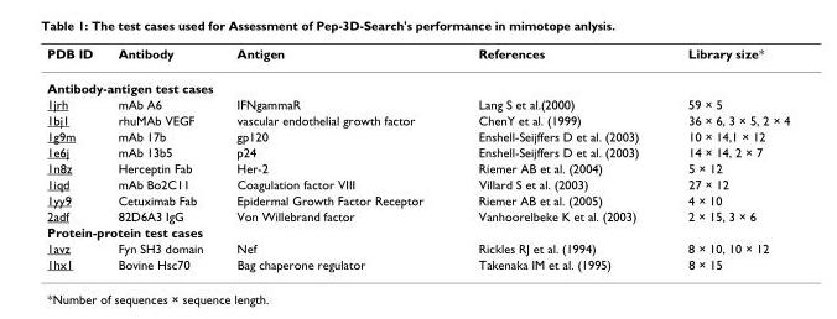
<table><thead><tr><td>PDB ID</td><td>Antibody</td><td>Antigen</td><td>References</td><td>Library size*</td></tr></thead><tbody><tr><td colspan="5">Antibody-antigen test cases</td></tr><tr><td>1jrh</td><td>mAb A6</td><td>IFNgammaR</td><td>Lang S et al.(2000)</td><td>59 × 5</td></tr><tr><td>1bj1</td><td>rhuMAb VEGF</td><td>vascular endothelial growth factor</td><td>ChenY et al. (1999)</td><td>36 × 6, 3 × 5, 2 × 4</td></tr><tr><td>1g9m</td><td>mAb 17b</td><td>gp120</td><td>Enshell-Seijffers D et al. (2003)</td><td>10 × 14,1 × 12</td></tr><tr><td>1e6j</td><td>mAb 13b5</td><td>p24</td><td>Enshell-Seijffers D et al. (2003)</td><td>14 × 14, 2 × 7</td></tr><tr><td>1n8z</td><td>Herceptin Fab</td><td>Her-2</td><td>Riemer AB et al. (2004)</td><td>5 × 12</td></tr><tr><td>1iqd</td><td>mAb Bo2C11</td><td>Coagulation factor VIII</td><td>Villard S et al. (2003)</td><td>27 × 12</td></tr><tr><td>1yy9</td><td>Cetuximab Fab</td><td>Epidermal Growth Factor Receptor</td><td>Riemer AB et al. (2005)</td><td>4 × 10</td></tr><tr><td>2adf</td><td>82D6A3 IgG</td><td>Von Willebrand factor</td><td>Vanhoorelbeke K et al. (2003)</td><td>2 × 15, 3 × 6</td></tr><tr><td colspan="5">Protein-protein test cases</td></tr><tr><td>1avz</td><td>Fyn SH3 domain</td><td>Nef</td><td>Rickles RJ et al. (1994)</td><td>8 × 10, 10 × 12</td></tr><tr><td>1hx1</td><td>Bovine Hsc70</td><td>Bag chaperone regulator</td><td>Takenaka IM et al. (1995)</td><td>8 × 15</td></tr></tbody></table>